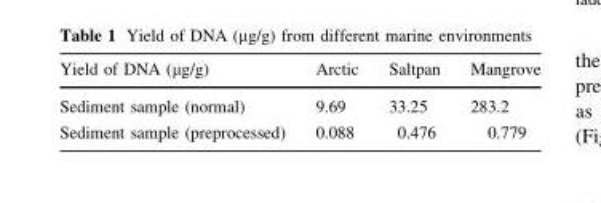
<table><thead><tr><td>Yield of DNA (μg/g)</td><td>Arctic</td><td>Saltpan</td><td>Mangrove</td></tr></thead><tbody><tr><td>Sediment sample (normal)</td><td>9.69</td><td>33.25</td><td>283.2</td></tr><tr><td>Sediment sample (preprocessed)</td><td>0.088</td><td>0.476</td><td>0.779</td></tr></tbody></table>